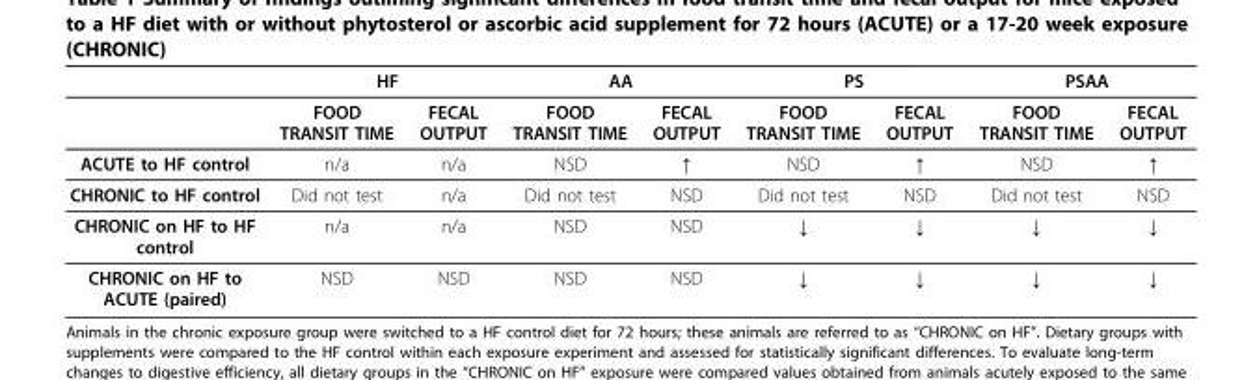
<table><thead><tr><td rowspan="2"></td><td colspan="2">HF</td><td colspan="2">AA</td><td colspan="2">PS</td><td colspan="2">PSAA</td></tr><tr><td>FOOD TRANSIT TIME</td><td>FECAL OUTPUT</td><td>FOOD TRANSIT TIME</td><td>FECAL OUTPUT</td><td>FOOD TRANSIT TIME</td><td>FECAL OUTPUT</td><td>FOOD TRANSIT TIME</td><td>FECAL OUTPUT</td></tr></thead><tbody><tr><td>ACUTE to HF control</td><td>n/a</td><td>n/a</td><td>NSD</td><td>↑</td><td>NSD</td><td>↑</td><td>NSD</td><td>↑</td></tr><tr><td>CHRONIC to HF control</td><td>Did not test</td><td>n/a</td><td>Did not test</td><td>NSD</td><td>Did not test</td><td>NSD</td><td>Did not test</td><td>NSD</td></tr><tr><td>CHRONIC on HF to HF control</td><td>n/a</td><td>n/a</td><td>NSD</td><td>NSD</td><td>↓</td><td>↓</td><td>↓</td><td>↓</td></tr><tr><td>CHRONIC on HF to ACUTE (paired)</td><td>NSD</td><td>NSD</td><td>NSD</td><td>NSD</td><td>↓</td><td>↓</td><td>↓</td><td>↓</td></tr></tbody></table>